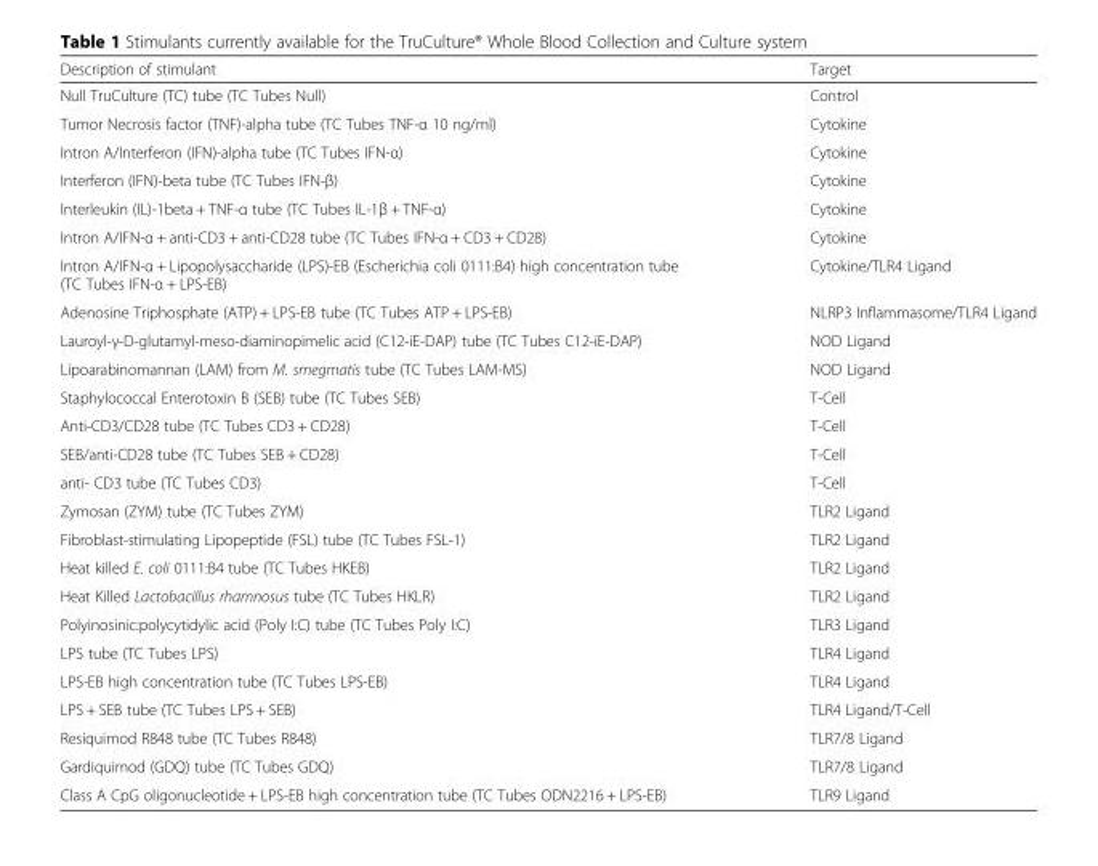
<table><thead><tr><td>Description of stimulant</td><td>Target</td></tr></thead><tbody><tr><td>Null TruCulture (TC) tube (TC Tubes Null)</td><td>Control</td></tr><tr><td>Tumor Necrosis factor (TNF)-alpha tube (TC Tubes TNF-α 10 ng/ml)</td><td>Cytokine</td></tr><tr><td>Intron A/Interferon (IFN)-alpha tube (TC Tubes IFN-α)</td><td>Cytokine</td></tr><tr><td>Interferon (IFN)-beta tube (TC Tubes IFN-β)</td><td>Cytokine</td></tr><tr><td>Interleukin (IL)-1beta + TNF-α tube (TC Tubes IL-1β + TNF-α)</td><td>Cytokine</td></tr><tr><td>Intron A/IFN-α + anti-CD3 + anti-CD28 tube (TC Tubes IFN-α + CD3 + CD28)</td><td>Cytokine</td></tr><tr><td>Intron A/IFN-α + Lipopolysaccharide (LPS)-EB (Escherichia coli 0111:B4) high concentration tube (TC Tubes IFN-α + LPS-EB)</td><td>Cytokine/TLR4 Ligand</td></tr><tr><td>Adenosine Triphosphate (ATP) + LPS-EB tube (TC Tubes ATP + LPS-EB)</td><td>NLRP3 Inflammasome/TLR4 Ligand</td></tr><tr><td>Lauroyl-γ-D-glutamyl-meso-diaminopimelic acid (C12-iE-DAP) tube (TC Tubes C12-iE-DAP)</td><td>NOD Ligand</td></tr><tr><td>Lipoarabinomannan (LAM) from M. smegmatis tube (TC Tubes LAM-MS)</td><td>NOD Ligand</td></tr><tr><td>Staphylococcal Enterotoxin B (SEB) tube (TC Tubes SEB)</td><td>T-Cell</td></tr><tr><td>Anti-CD3/CD28 tube (TC Tubes CD3 + CD28)</td><td>T-Cell</td></tr><tr><td>SEB/anti-CD28 tube (TC Tubes SEB + CD28)</td><td>T-Cell</td></tr><tr><td>anti- CD3 tube (TC Tubes CD3)</td><td>T-Cell</td></tr><tr><td>Zymosan (ZYM) tube (TC Tubes ZYM)</td><td>TLR2 Ligand</td></tr><tr><td>Fibroblast-stimulating Lipopeptide (FSL) tube (TC Tubes FSL-1)</td><td>TLR2 Ligand</td></tr><tr><td>Heat killed E. coli 0111:B4 tube (TC Tubes HKEB)</td><td>TLR2 Ligand</td></tr><tr><td>Heat Killed Lactobacillus rhamnosus tube (TC Tubes HKLR)</td><td>TLR2 Ligand</td></tr><tr><td>Polyinosinic:polycytidylic acid (Poly I:C) tube (TC Tubes Poly I:C)</td><td>TLR3 Ligand</td></tr><tr><td>LPS tube (TC Tubes LPS)</td><td>TLR4 Ligand</td></tr><tr><td>LPS-EB high concentration tube (TC Tubes LPS-EB)</td><td>TLR4 Ligand</td></tr><tr><td>LPS + SEB tube (TC Tubes LPS + SEB)</td><td>TLR4 Ligand/T-Cell</td></tr><tr><td>Resiquimod R848 tube (TC Tubes R848)</td><td>TLR7/8 Ligand</td></tr><tr><td>Gardiquimod (GDQ) tube (TC Tubes GDQ)</td><td>TLR7/8 Ligand</td></tr><tr><td>Class A CpG oligonucleotide + LPS-EB high concentration tube (TC Tubes ODN2216 + LPS-EB)</td><td>TLR9 Ligand</td></tr></tbody></table>